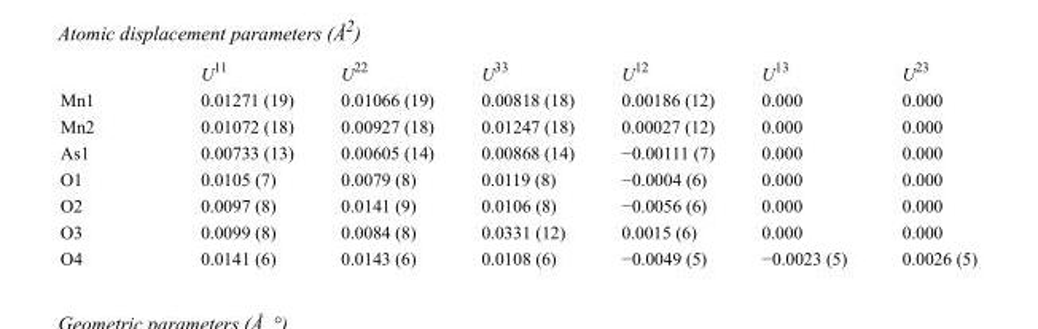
<table><thead><tr><td></td><td>U<sup>11</sup></td><td>U<sup>22</sup></td><td>U<sup>33</sup></td><td>U<sup>12</sup></td><td>U<sup>13</sup></td><td>U<sup>23</sup></td></tr></thead><tbody><tr><td>Mn1</td><td>0.01271 (19)</td><td>0.01066 (19)</td><td>0.00818 (18)</td><td>0.00186 (12)</td><td>0.000</td><td>0.000</td></tr><tr><td>Mn2</td><td>0.01072 (18)</td><td>0.00927 (18)</td><td>0.01247 (18)</td><td>0.00027 (12)</td><td>0.000</td><td>0.000</td></tr><tr><td>As1</td><td>0.00733 (13)</td><td>0.00605 (14)</td><td>0.00868 (14)</td><td>−0.00111 (7)</td><td>0.000</td><td>0.000</td></tr><tr><td>O1</td><td>0.0105 (7)</td><td>0.0079 (8)</td><td>0.0119 (8)</td><td>−0.0004 (6)</td><td>0.000</td><td>0.000</td></tr><tr><td>O2</td><td>0.0097 (8)</td><td>0.0141 (9)</td><td>0.0106 (8)</td><td>−0.0056 (6)</td><td>0.000</td><td>0.000</td></tr><tr><td>O3</td><td>0.0099 (8)</td><td>0.0084 (8)</td><td>0.0331 (12)</td><td>0.0015 (6)</td><td>0.000</td><td>0.000</td></tr><tr><td>O4</td><td>0.0141 (6)</td><td>0.0143 (6)</td><td>0.0108 (6)</td><td>−0.0049 (5)</td><td>−0.0023 (5)</td><td>0.0026 (5)</td></tr></tbody></table>